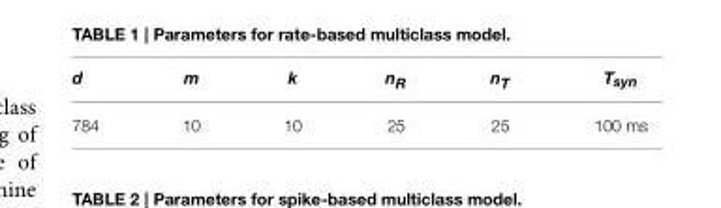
<table><thead><tr><td>d</td><td>m</td><td>k</td><td>nR</td><td>nT</td><td>Tsyn</td></tr></thead><tbody><tr><td>784</td><td>10</td><td>10</td><td>25</td><td>25</td><td>100 ms</td></tr></tbody></table>